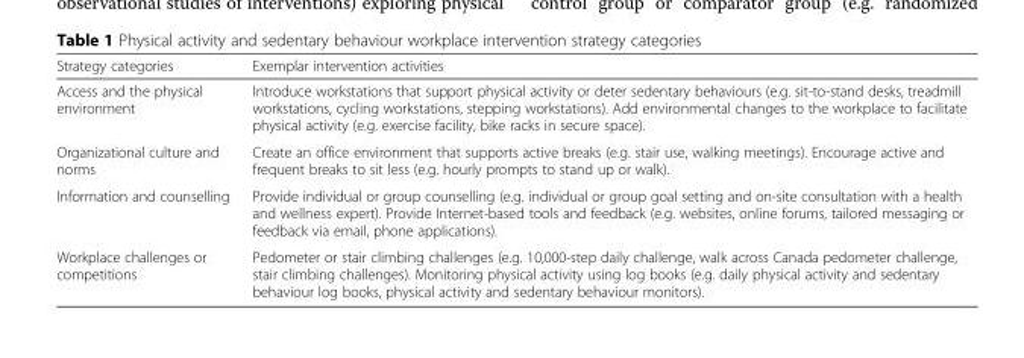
<table><thead><tr><td>Strategy categories</td><td>Exemplar intervention activities</td></tr></thead><tbody><tr><td>Access and the physical environment</td><td>Introduce workstations that support physical activity or deter sedentary behaviours (e.g. sit-to-stand desks, treadmill workstations, cycling workstations, stepping workstations). Add environmental changes to the workplace to facilitate physical activity (e.g. exercise facility, bike racks in secure space).</td></tr><tr><td>Organizational culture and norms</td><td>Create an office environment that supports active breaks (e.g. stair use, walking meetings). Encourage active and frequent breaks to sit less (e.g. hourly prompts to stand up or walk).</td></tr><tr><td>Information and counselling</td><td>Provide individual or group counselling (e.g. individual or group goal setting and on-site consultation with a health and wellness expert). Provide Internet-based tools and feedback (e.g. websites, online forums, tailored messaging or feedback via email, phone applications).</td></tr><tr><td>Workplace challenges or competitions</td><td>Pedometer or stair climbing challenges (e.g. 10,000-step daily challenge, walk across Canada pedometer challenge, stair climbing challenges). Monitoring physical activity using log books (e.g. daily physical activity and sedentary behaviour log books, physical activity and sedentary behaviour monitors).</td></tr></tbody></table>